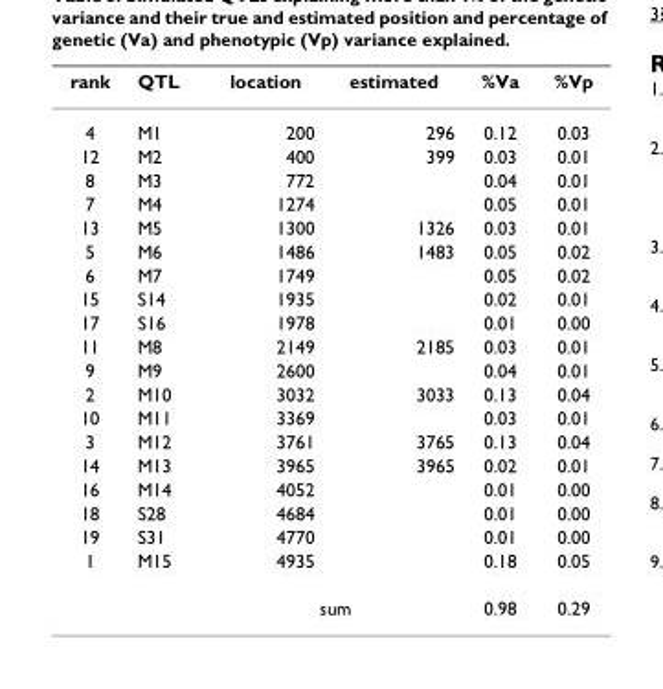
<table><thead><tr><td>rank</td><td>QTL</td><td>location</td><td>estimated</td><td>%Va</td><td>%Vp</td></tr></thead><tbody><tr><td>4</td><td>M1</td><td>200</td><td>296</td><td>0.12</td><td>0.03</td></tr><tr><td>12</td><td>M2</td><td>400</td><td>399</td><td>0.03</td><td>0.01</td></tr><tr><td>8</td><td>M3</td><td>772</td><td></td><td>0.04</td><td>0.01</td></tr><tr><td>7</td><td>M4</td><td>1274</td><td></td><td>0.05</td><td>0.01</td></tr><tr><td>13</td><td>M5</td><td>1300</td><td>1326</td><td>0.03</td><td>0.01</td></tr><tr><td>5</td><td>M6</td><td>1486</td><td>1483</td><td>0.05</td><td>0.02</td></tr><tr><td>6</td><td>M7</td><td>1749</td><td></td><td>0.05</td><td>0.02</td></tr><tr><td>15</td><td>S14</td><td>1935</td><td></td><td>0.02</td><td>0.01</td></tr><tr><td>17</td><td>S16</td><td>1978</td><td></td><td>0.01</td><td>0.00</td></tr><tr><td>11</td><td>M8</td><td>2149</td><td>2185</td><td>0.03</td><td>0.01</td></tr><tr><td>9</td><td>M9</td><td>2600</td><td></td><td>0.04</td><td>0.01</td></tr><tr><td>2</td><td>M10</td><td>3032</td><td>3033</td><td>0.13</td><td>0.04</td></tr><tr><td>10</td><td>M11</td><td>3369</td><td></td><td>0.03</td><td>0.01</td></tr><tr><td>3</td><td>M12</td><td>3761</td><td>3765</td><td>0.13</td><td>0.04</td></tr><tr><td>14</td><td>M13</td><td>3965</td><td>3965</td><td>0.02</td><td>0.01</td></tr><tr><td>16</td><td>M14</td><td>4052</td><td></td><td>0.01</td><td>0.00</td></tr><tr><td>18</td><td>S28</td><td>4684</td><td></td><td>0.01</td><td>0.00</td></tr><tr><td>19</td><td>S31</td><td>4770</td><td></td><td>0.01</td><td>0.00</td></tr><tr><td rowspan="2">1</td><td>M15</td><td>4935</td><td></td><td>0.18</td><td>0.05</td></tr><tr><td></td><td colspan="2">sum</td><td>0.98</td><td>0.29</td></tr></tbody></table>